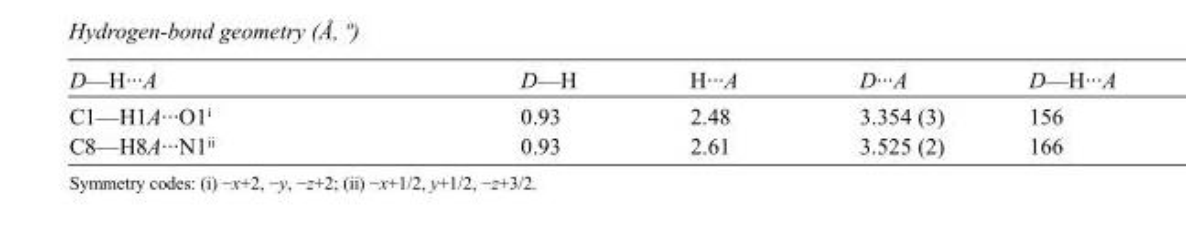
<table><tbody><tr><td>D—H···A</td><td>D—H</td><td>H···A</td><td>D···A</td><td>D—H···A</td></tr><tr><td>C1—H1A···O1<sup>i</sup></td><td>0.93</td><td>2.48</td><td>3.354 (3)</td><td>156</td></tr><tr><td>C8—H8A···N1<sup>ii</sup></td><td>0.93</td><td>2.61</td><td>3.525 (2)</td><td>166</td></tr></tbody></table>